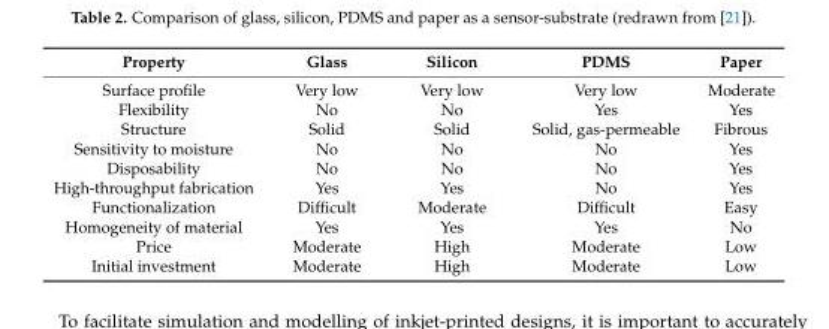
<table><thead><tr><td>Property</td><td>Glass</td><td>Silicon</td><td>PDMS</td><td>Paper</td></tr></thead><tbody><tr><td>Surface profile</td><td>Very low</td><td>Very low</td><td>Very low</td><td>Moderate</td></tr><tr><td>Flexibility</td><td>No</td><td>No</td><td>Yes</td><td>Yes</td></tr><tr><td>Structure</td><td>Solid</td><td>Solid</td><td>Solid, gas-permeable</td><td>Fibrous</td></tr><tr><td>Sensitivity to moisture</td><td>No</td><td>No</td><td>No</td><td>Yes</td></tr><tr><td>Disposability</td><td>No</td><td>No</td><td>No</td><td>Yes</td></tr><tr><td>High-throughput fabrication</td><td>Yes</td><td>Yes</td><td>No</td><td>Yes</td></tr><tr><td>Functionalization</td><td>Difficult</td><td>Moderate</td><td>Difficult</td><td>Easy</td></tr><tr><td>Homogeneity of material</td><td>Yes</td><td>Yes</td><td>Yes</td><td>No</td></tr><tr><td>Price</td><td>Moderate</td><td>High</td><td>Moderate</td><td>Low</td></tr><tr><td>Initial investment</td><td>Moderate</td><td>High</td><td>Moderate</td><td>Low</td></tr></tbody></table>